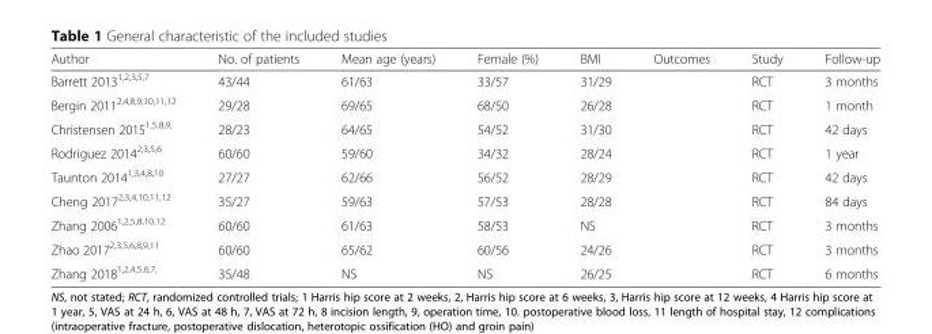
<table><thead><tr><td>Author</td><td>No. of patients</td><td>Mean age (years)</td><td>Female (%)</td><td>BMI</td><td>Outcomes</td><td>Study</td><td>Follow-up</td></tr></thead><tbody><tr><td>Barrett 2013<sup>1,2,3,5,7</sup></td><td>43/44</td><td>61/63</td><td>33/57</td><td>31/29</td><td></td><td>RCT</td><td>3 months</td></tr><tr><td>Bergin 2011<sup>2,4,8,9,10,11,12</sup></td><td>29/28</td><td>69/65</td><td>68/50</td><td>26/28</td><td></td><td>RCT</td><td>1 month</td></tr><tr><td>Christensen 2015<sup>1,5,8,9,</sup></td><td>28/23</td><td>64/65</td><td>54/52</td><td>31/30</td><td></td><td>RCT</td><td>42 days</td></tr><tr><td>Rodriguez 2014<sup>2,3,5,6</sup></td><td>60/60</td><td>59/60</td><td>34/32</td><td>28/24</td><td></td><td>RCT</td><td>1 year</td></tr><tr><td>Taunton 2014<sup>1,3,4,8,10</sup></td><td>27/27</td><td>62/66</td><td>56/52</td><td>28/29</td><td></td><td>RCT</td><td>42 days</td></tr><tr><td>Cheng 2017<sup>2,3,4,10,11,12</sup></td><td>35/27</td><td>59/63</td><td>57/53</td><td>28/28</td><td></td><td>RCT</td><td>84 days</td></tr><tr><td>Zhang 2006<sup>1,2,5,8,10,12</sup></td><td>60/60</td><td>61/63</td><td>58/53</td><td>NS</td><td></td><td>RCT</td><td>3 months</td></tr><tr><td>Zhao 2017<sup>2,3,5,6,8,9,11</sup></td><td>60/60</td><td>65/62</td><td>60/56</td><td>24/26</td><td></td><td>RCT</td><td>3 months</td></tr><tr><td>Zhang 2018<sup>1,2,4,5,6,7,</sup></td><td>35/48</td><td>NS</td><td>NS</td><td>26/25</td><td></td><td>RCT</td><td>6 months</td></tr></tbody></table>